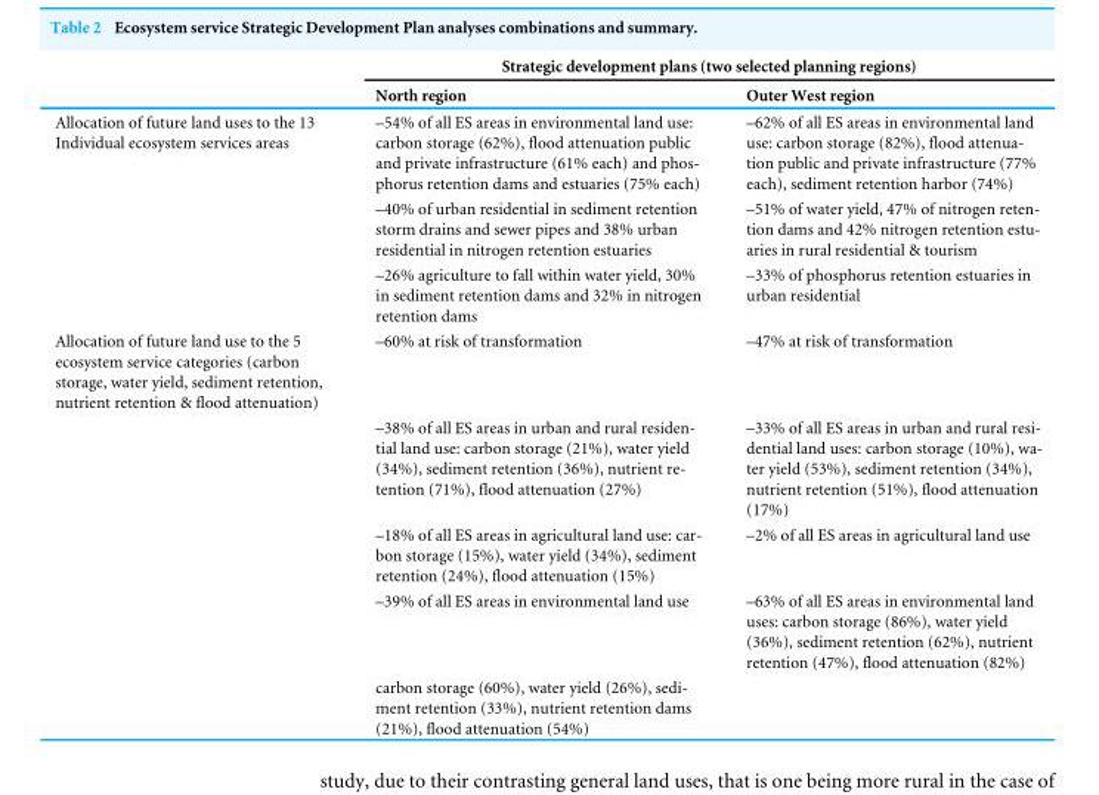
<table><thead><tr><td rowspan="2"></td><td colspan="2">Strategic development plans (two selected planning regions)</td></tr><tr><td>North region</td><td>Outer West region</td></tr></thead><tbody><tr><td rowspan="3">Allocation of future land uses to the 13 Individual ecosystem services areas</td><td>–54% of all ES areas in environmental land use: carbon storage (62%), flood attenuation public and private infrastructure (61% each) and phos- phorus retention dams and estuaries (75% each)</td><td>–62% of all ES areas in environmental land use: carbon storage (82%), flood attenua- tion public and private infrastructure (77% each), sediment retention harbor (74%)</td></tr><tr><td>–40% of urban residential in sediment retention storm drains and sewer pipes and 38% urban residential in nitrogen retention estuaries</td><td>–51% of water yield, 47% of nitrogen reten- tion dams and 42% nitrogen retention estu- aries in rural residential &amp; tourism</td></tr><tr><td>–26% agriculture to fall within water yield, 30% in sediment retention dams and 32% in nitrogen retention dams</td><td>–33% of phosphorus retention estuaries in urban residential</td></tr><tr><td rowspan="5">Allocation of future land use to the 5 ecosystem service categories (carbon storage, water yield, sediment retention, nutrient retention &amp; flood attenuation)</td><td>–60% at risk of transformation</td><td>–47% at risk of transformation</td></tr><tr><td>–38% of all ES areas in urban and rural residen- tial land use: carbon storage (21%), water yield (34%), sediment retention (36%), nutrient re- tention (71%), flood attenuation (27%)</td><td>–33% of all ES areas in urban and rural resi- dential land uses: carbon storage (10%), wa- ter yield (53%), sediment retention (34%), nutrient retention (51%), flood attenuation (17%)</td></tr><tr><td>–18% of all ES areas in agricultural land use: car- bon storage (15%), water yield (34%), sediment retention (24%), flood attenuation (15%)</td><td>–2% of all ES areas in agricultural land use</td></tr><tr><td>–39% of all ES areas in environmental land use</td><td>–63% of all ES areas in environmental land uses: carbon storage (86%), water yield (36%), sediment retention (62%), nutrient retention (47%), flood attenuation (82%)</td></tr><tr><td>carbon storage (60%), water yield (26%), sedi- ment retention (33%), nutrient retention dams (21%), flood attenuation (54%)</td><td></td></tr></tbody></table>